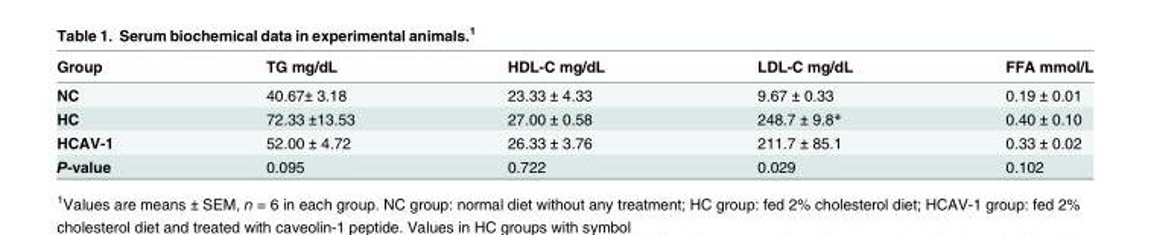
<table><thead><tr><td>Group</td><td>TG mg/dL</td><td>HDL-C mg/dL</td><td>LDL-C mg/dL</td><td>FFA mmol/L</td></tr></thead><tbody><tr><td>NC</td><td>40.67± 3.18</td><td>23.33 ± 4.33</td><td>9.67 ± 0.33</td><td>0.19 ± 0.01</td></tr><tr><td>HC</td><td>72.33 ±13.53</td><td>27.00 ± 0.58</td><td>248.7 ± 9.8*</td><td>0.40 ± 0.10</td></tr><tr><td>HCAV-1</td><td>52.00 ± 4.72</td><td>26.33 ± 3.76</td><td>211.7 ± 85.1</td><td>0.33 ± 0.02</td></tr><tr><td>P-value</td><td>0.095</td><td>0.722</td><td>0.029</td><td>0.102</td></tr></tbody></table>